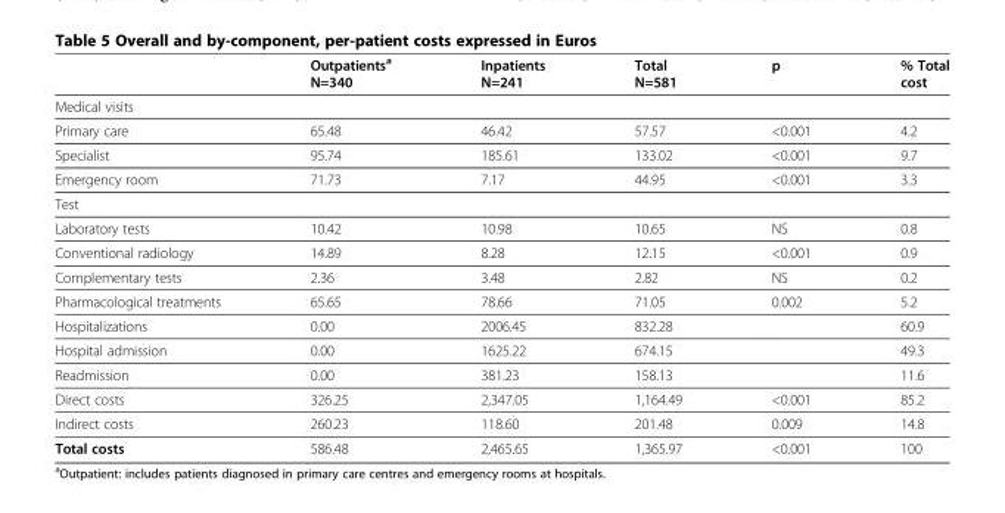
<table><thead><tr><td></td><td>Outpatients<sup>a</sup> N=340</td><td>Inpatients N=241</td><td>Total N=581</td><td>p</td><td>% Total cost</td></tr></thead><tbody><tr><td colspan="6">Medical visits</td></tr><tr><td>Primary care</td><td>65.48</td><td>46.42</td><td>57.57</td><td>&lt;0.001</td><td>4.2</td></tr><tr><td>Specialist</td><td>95.74</td><td>185.61</td><td>133.02</td><td>&lt;0.001</td><td>9.7</td></tr><tr><td>Emergency room</td><td>71.73</td><td>7.17</td><td>44.95</td><td>&lt;0.001</td><td>3.3</td></tr><tr><td colspan="6">Test</td></tr><tr><td>Laboratory tests</td><td>10.42</td><td>10.98</td><td>10.65</td><td>NS</td><td>0.8</td></tr><tr><td>Conventional radiology</td><td>14.89</td><td>8.28</td><td>12.15</td><td>&lt;0.001</td><td>0.9</td></tr><tr><td>Complementary tests</td><td>2.36</td><td>3.48</td><td>2.82</td><td>NS</td><td>0.2</td></tr><tr><td>Pharmacological treatments</td><td>65.65</td><td>78.66</td><td>71.05</td><td>0.002</td><td>5.2</td></tr><tr><td>Hospitalizations</td><td>0.00</td><td>2006.45</td><td>832.28</td><td></td><td>60.9</td></tr><tr><td>Hospital admission</td><td>0.00</td><td>1625.22</td><td>674.15</td><td></td><td>49.3</td></tr><tr><td>Readmission</td><td>0.00</td><td>381.23</td><td>158.13</td><td></td><td>11.6</td></tr><tr><td>Direct costs</td><td>326.25</td><td>2,347.05</td><td>1,164.49</td><td>&lt;0.001</td><td>85.2</td></tr><tr><td>Indirect costs</td><td>260.23</td><td>118.60</td><td>201.48</td><td>0.009</td><td>14.8</td></tr><tr><td>Total costs</td><td>586.48</td><td>2,465.65</td><td>1,365.97</td><td>&lt;0.001</td><td>100</td></tr></tbody></table>